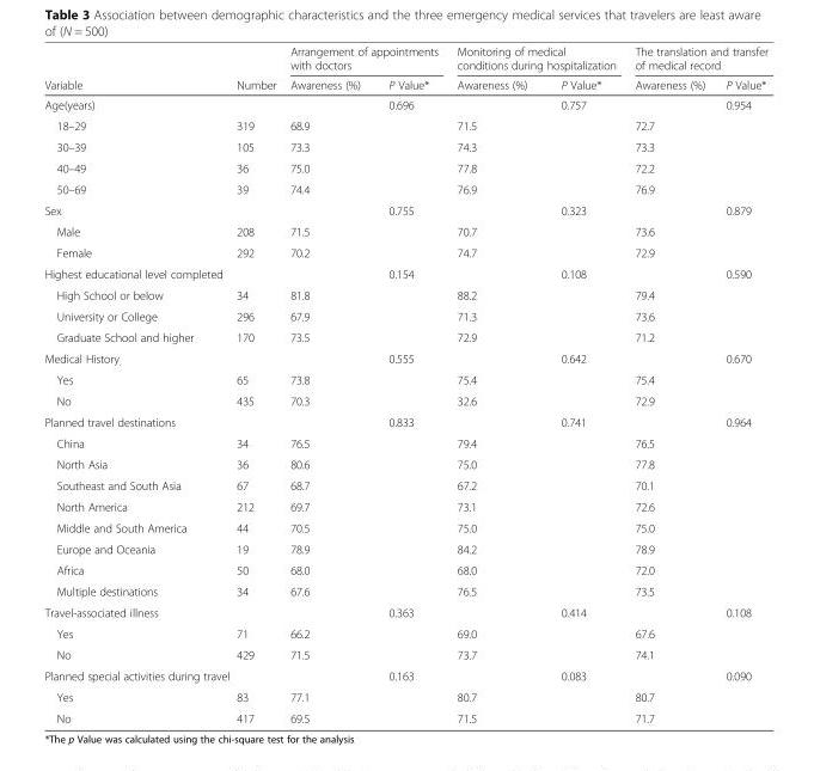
<table><thead><tr><td rowspan="2">Variable</td><td rowspan="2">Number</td><td colspan="2">Arrangement of appointments with doctors</td><td colspan="2">Monitoring of medical conditions during hospitalization</td><td colspan="2">The translation and transfer of medical record</td></tr><tr><td>Awareness (%)</td><td>P Value*</td><td>Awareness (%)</td><td>P Value*</td><td>Awareness (%)</td><td>P Value*</td></tr></thead><tbody><tr><td>Age(years)</td><td></td><td></td><td>0.696</td><td></td><td>0.757</td><td></td><td>0.954</td></tr><tr><td>18–29</td><td>319</td><td>68.9</td><td></td><td>71.5</td><td></td><td>72.7</td><td></td></tr><tr><td>30–39</td><td>105</td><td>73.3</td><td></td><td>74.3</td><td></td><td>73.3</td><td></td></tr><tr><td>40–49</td><td>36</td><td>75.0</td><td></td><td>77.8</td><td></td><td>72.2</td><td></td></tr><tr><td>50–69</td><td>39</td><td>74.4</td><td></td><td>76.9</td><td></td><td>76.9</td><td></td></tr><tr><td>Sex</td><td></td><td></td><td>0.755</td><td></td><td>0.323</td><td></td><td>0.879</td></tr><tr><td>Male</td><td>208</td><td>71.5</td><td></td><td>70.7</td><td></td><td>73.6</td><td></td></tr><tr><td>Female</td><td>292</td><td>70.2</td><td></td><td>74.7</td><td></td><td>72.9</td><td></td></tr><tr><td>Highest educational level completed</td><td></td><td></td><td>0.154</td><td></td><td>0.108</td><td></td><td>0.590</td></tr><tr><td>High School or below</td><td>34</td><td>81.8</td><td></td><td>88.2</td><td></td><td>79.4</td><td></td></tr><tr><td>University or College</td><td>296</td><td>67.9</td><td></td><td>71.3</td><td></td><td>73.6</td><td></td></tr><tr><td>Graduate School and higher</td><td>170</td><td>73.5</td><td></td><td>72.9</td><td></td><td>71.2</td><td></td></tr><tr><td>Medical History</td><td></td><td></td><td>0.555</td><td></td><td>0.642</td><td></td><td>0.670</td></tr><tr><td>Yes</td><td>65</td><td>73.8</td><td></td><td>75.4</td><td></td><td>75.4</td><td></td></tr><tr><td>No</td><td>435</td><td>70.3</td><td></td><td>32.6</td><td></td><td>72.9</td><td></td></tr><tr><td>Planned travel destinations</td><td></td><td></td><td>0.833</td><td></td><td>0.741</td><td></td><td>0.964</td></tr><tr><td>China</td><td>34</td><td>76.5</td><td></td><td>79.4</td><td></td><td>76.5</td><td></td></tr><tr><td>North Asia</td><td>36</td><td>80.6</td><td></td><td>75.0</td><td></td><td>77.8</td><td></td></tr><tr><td>Southeast and South Asia</td><td>67</td><td>68.7</td><td></td><td>67.2</td><td></td><td>70.1</td><td></td></tr><tr><td>North America</td><td>212</td><td>69.7</td><td></td><td>73.1</td><td></td><td>72.6</td><td></td></tr><tr><td>Middle and South America</td><td>44</td><td>70.5</td><td></td><td>75.0</td><td></td><td>75.0</td><td></td></tr><tr><td>Europe and Oceania</td><td>19</td><td>78.9</td><td></td><td>84.2</td><td></td><td>78.9</td><td></td></tr><tr><td>Africa</td><td>50</td><td>68.0</td><td></td><td>68.0</td><td></td><td>72.0</td><td></td></tr><tr><td>Multiple destinations</td><td>34</td><td>67.6</td><td></td><td>76.5</td><td></td><td>73.5</td><td></td></tr><tr><td>Travel-associated illness</td><td></td><td></td><td>0.363</td><td></td><td>0.414</td><td></td><td>0.108</td></tr><tr><td>Yes</td><td>71</td><td>66.2</td><td></td><td>69.0</td><td></td><td>67.6</td><td></td></tr><tr><td>No</td><td>429</td><td>71.5</td><td></td><td>73.7</td><td></td><td>74.1</td><td></td></tr><tr><td colspan="2">Planned special activities during travel</td><td></td><td>0.163</td><td></td><td>0.083</td><td></td><td>0.090</td></tr><tr><td>Yes</td><td>83</td><td>77.1</td><td></td><td>80.7</td><td></td><td>80.7</td><td></td></tr><tr><td>No</td><td>417</td><td>69.5</td><td></td><td>71.5</td><td></td><td>71.7</td><td></td></tr></tbody></table>